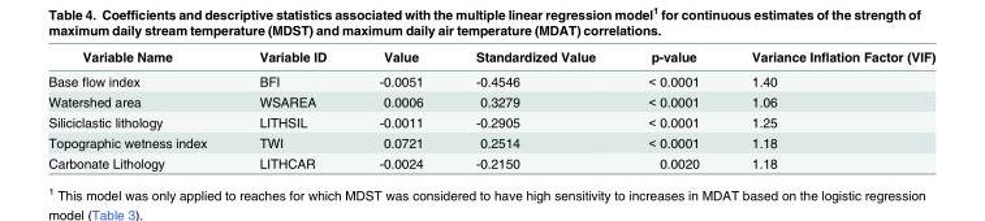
<table><thead><tr><td>Variable Name</td><td>Variable ID</td><td>Value</td><td>Standardized Value</td><td>p-value</td><td>Variance Inflation Factor (VIF)</td></tr></thead><tbody><tr><td>Base flow index</td><td>BFI</td><td>-0.0051</td><td>-0.4546</td><td>&lt; 0.0001</td><td>1.40</td></tr><tr><td>Watershed area</td><td>WSAREA</td><td>0.0006</td><td>0.3279</td><td>&lt; 0.0001</td><td>1.06</td></tr><tr><td>Siliciclastic lithology</td><td>LITHSIL</td><td>-0.0011</td><td>-0.2905</td><td>&lt; 0.0001</td><td>1.25</td></tr><tr><td>Topographic wetness index</td><td>TWI</td><td>0.0721</td><td>0.2514</td><td>&lt; 0.0001</td><td>1.18</td></tr><tr><td>Carbonate Lithology</td><td>LITHCAR</td><td>-0.0024</td><td>-0.2150</td><td>0.0020</td><td>1.18</td></tr></tbody></table>